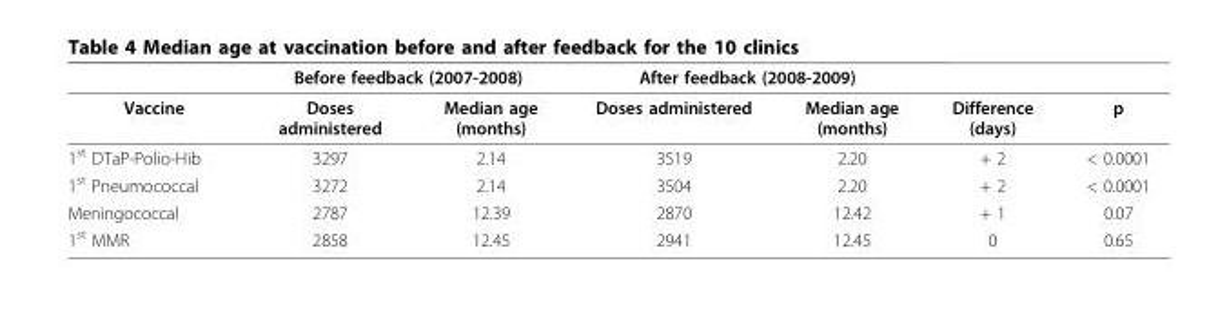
<table><thead><tr><td rowspan="2">Vaccine</td><td colspan="2">Before feedback (2007-2008)</td><td colspan="2">After feedback (2008-2009)</td><td rowspan="2">Difference (days)</td><td rowspan="2">p</td></tr><tr><td>Doses administered</td><td>Median age (months)</td><td>Doses administered</td><td>Median age (months)</td></tr></thead><tbody><tr><td>1<sup>st</sup> DTaP-Polio-Hib</td><td>3297</td><td>2.14</td><td>3519</td><td>2.20</td><td>+ 2</td><td>&lt; 0.0001</td></tr><tr><td>1<sup>st</sup> Pneumococcal</td><td>3272</td><td>2.14</td><td>3504</td><td>2.20</td><td>+ 2</td><td>&lt; 0.0001</td></tr><tr><td>Meningococcal</td><td>2787</td><td>12.39</td><td>2870</td><td>12.42</td><td>+ 1</td><td>0.07</td></tr><tr><td>1<sup>st</sup> MMR</td><td>2858</td><td>12.45</td><td>2941</td><td>12.45</td><td>0</td><td>0.65</td></tr></tbody></table>